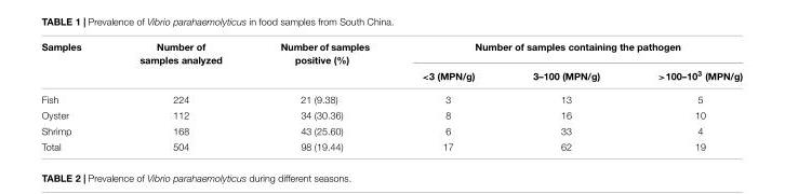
<table><thead><tr><td rowspan="2">Samples</td><td rowspan="2">Number of samples analyzed</td><td rowspan="2">Number of samples positive (%)</td><td colspan="3">Number of samples containing the pathogen</td></tr><tr><td>&lt;3 (MPN/g)</td><td>3–100 (MPN/g)</td><td>&gt;100–10<sup>3</sup> (MPN/g)</td></tr></thead><tbody><tr><td>Fish</td><td>224</td><td>21 (9.38)</td><td>3</td><td>13</td><td>5</td></tr><tr><td>Oyster</td><td>112</td><td>34 (30.36)</td><td>8</td><td>16</td><td>10</td></tr><tr><td>Shrimp</td><td>168</td><td>43 (25.60)</td><td>6</td><td>33</td><td>4</td></tr><tr><td>Total</td><td>504</td><td>98 (19.44)</td><td>17</td><td>62</td><td>19</td></tr></tbody></table>